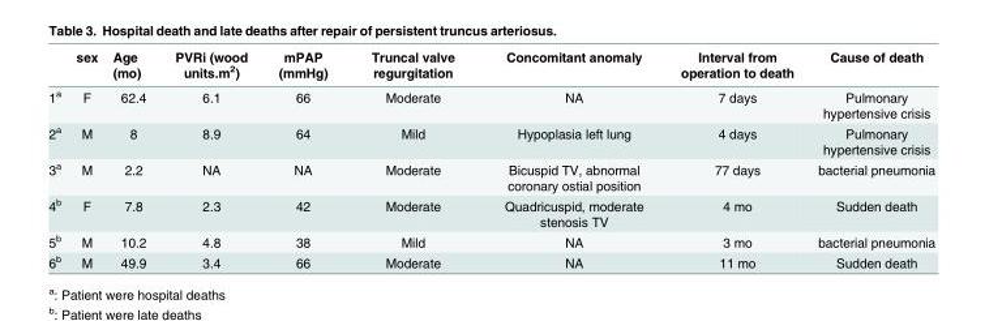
<table><thead><tr><td></td><td>sex</td><td>Age (mo)</td><td>PVRi (wood units.m<sup>2</sup>)</td><td>mPAP (mmHg)</td><td>Truncal valve regurgitation</td><td>Concomitant anomaly</td><td>Interval from operation to death</td><td>Cause of death</td></tr></thead><tbody><tr><td>1<sup>a</sup></td><td>F</td><td>62.4</td><td>6.1</td><td>66</td><td>Moderate</td><td>NA</td><td>7 days</td><td>Pulmonary hypertensive crisis</td></tr><tr><td>2<sup>a</sup></td><td>M</td><td>8</td><td>8.9</td><td>64</td><td>Mild</td><td>Hypoplasia left lung</td><td>4 days</td><td>Pulmonary hypertensive crisis</td></tr><tr><td>3<sup>a</sup></td><td>M</td><td>2.2</td><td>NA</td><td>NA</td><td>Moderate</td><td>Bicuspid TV, abnormal coronary ostial position</td><td>77 days</td><td>bacterial pneumonia</td></tr><tr><td>4<sup>b</sup></td><td>F</td><td>7.8</td><td>2.3</td><td>42</td><td>Moderate</td><td>Quadricuspid, moderate stenosis TV</td><td>4 mo</td><td>Sudden death</td></tr><tr><td>5<sup>b</sup></td><td>M</td><td>10.2</td><td>4.8</td><td>38</td><td>Mild</td><td>NA</td><td>3 mo</td><td>bacterial pneumonia</td></tr><tr><td>6<sup>b</sup></td><td>M</td><td>49.9</td><td>3.4</td><td>66</td><td>Moderate</td><td>NA</td><td>11 mo</td><td>Sudden death</td></tr></tbody></table>